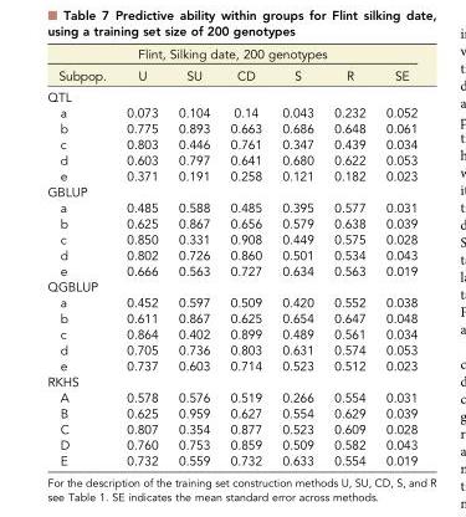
<table><thead><tr><td colspan="7">Flint, Silking date, 200 genotypes</td></tr><tr><td>Subpop.</td><td>U</td><td>SU</td><td>CD</td><td>S</td><td>R</td><td>SE</td></tr></thead><tbody><tr><td colspan="7">QTL</td></tr><tr><td>a</td><td>0.073</td><td>0.104</td><td>0.14</td><td>0.043</td><td>0.232</td><td>0.052</td></tr><tr><td>b</td><td>0.775</td><td>0.893</td><td>0.663</td><td>0.686</td><td>0.648</td><td>0.061</td></tr><tr><td>c</td><td>0.803</td><td>0.446</td><td>0.761</td><td>0.347</td><td>0.439</td><td>0.034</td></tr><tr><td>d</td><td>0.603</td><td>0.797</td><td>0.641</td><td>0.680</td><td>0.622</td><td>0.053</td></tr><tr><td>e</td><td>0.371</td><td>0.191</td><td>0.258</td><td>0.121</td><td>0.182</td><td>0.023</td></tr><tr><td colspan="7">GBLUP</td></tr><tr><td>a</td><td>0.485</td><td>0.588</td><td>0.485</td><td>0.395</td><td>0.577</td><td>0.031</td></tr><tr><td>b</td><td>0.625</td><td>0.867</td><td>0.656</td><td>0.579</td><td>0.638</td><td>0.039</td></tr><tr><td>c</td><td>0.850</td><td>0.331</td><td>0.908</td><td>0.449</td><td>0.575</td><td>0.028</td></tr><tr><td>d</td><td>0.802</td><td>0.726</td><td>0.860</td><td>0.501</td><td>0.534</td><td>0.043</td></tr><tr><td>e</td><td>0.666</td><td>0.563</td><td>0.727</td><td>0.634</td><td>0.563</td><td>0.019</td></tr><tr><td colspan="7">QGBLUP</td></tr><tr><td>a</td><td>0.452</td><td>0.597</td><td>0.509</td><td>0.420</td><td>0.552</td><td>0.038</td></tr><tr><td>b</td><td>0.611</td><td>0.867</td><td>0.625</td><td>0.654</td><td>0.647</td><td>0.048</td></tr><tr><td>c</td><td>0.864</td><td>0.402</td><td>0.899</td><td>0.489</td><td>0.561</td><td>0.034</td></tr><tr><td>d</td><td>0.705</td><td>0.736</td><td>0.803</td><td>0.631</td><td>0.574</td><td>0.053</td></tr><tr><td>e</td><td>0.737</td><td>0.603</td><td>0.714</td><td>0.523</td><td>0.512</td><td>0.023</td></tr><tr><td colspan="7">RKHS</td></tr><tr><td>A</td><td>0.578</td><td>0.576</td><td>0.519</td><td>0.266</td><td>0.554</td><td>0.031</td></tr><tr><td>B</td><td>0.625</td><td>0.959</td><td>0.627</td><td>0.554</td><td>0.629</td><td>0.039</td></tr><tr><td>C</td><td>0.807</td><td>0.354</td><td>0.877</td><td>0.523</td><td>0.609</td><td>0.028</td></tr><tr><td>D</td><td>0.760</td><td>0.753</td><td>0.859</td><td>0.509</td><td>0.582</td><td>0.043</td></tr><tr><td>E</td><td>0.732</td><td>0.559</td><td>0.732</td><td>0.633</td><td>0.554</td><td>0.019</td></tr></tbody></table>